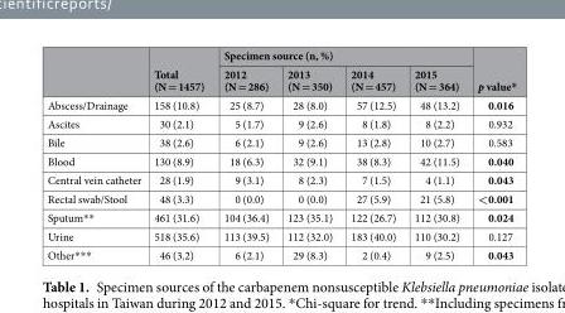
<table><thead><tr><td rowspan="2"></td><td rowspan="2">Total (N = 1457)</td><td colspan="4">Specimen source (n, %)</td><td rowspan="2">p value*</td></tr><tr><td>2012 (N = 286)</td><td>2013 (N = 350)</td><td>2014 (N = 457)</td><td>2015 (N = 364)</td></tr></thead><tbody><tr><td>Abscess/Drainage</td><td>158 (10.8)</td><td>25 (8.7)</td><td>28 (8.0)</td><td>57 (12.5)</td><td>48 (13.2)</td><td>0.016</td></tr><tr><td>Ascites</td><td>30 (2.1)</td><td>5 (1.7)</td><td>9 (2.6)</td><td>8 (1.8)</td><td>8 (2.2)</td><td>0.932</td></tr><tr><td>Bile</td><td>38 (2.6)</td><td>6 (2.1)</td><td>9 (2.6)</td><td>13 (2.8)</td><td>10 (2.7)</td><td>0.583</td></tr><tr><td>Blood</td><td>130 (8.9)</td><td>18 (6.3)</td><td>32 (9.1)</td><td>38 (8.3)</td><td>42 (11.5)</td><td>0.040</td></tr><tr><td>Central vein catheter</td><td>28 (1.9)</td><td>9 (3.1)</td><td>8 (2.3)</td><td>7 (1.5)</td><td>4 (1.1)</td><td>0.043</td></tr><tr><td>Rectal swab/Stool</td><td>48 (3.3)</td><td>0 (0.0)</td><td>0 (0.0)</td><td>27 (5.9)</td><td>21 (5.8)</td><td>&lt;0.001</td></tr><tr><td>Sputum**</td><td>461 (31.6)</td><td>104 (36.4)</td><td>123 (35.1)</td><td>122 (26.7)</td><td>112 (30.8)</td><td>0.024</td></tr><tr><td>Urine</td><td>518 (35.6)</td><td>113 (39.5)</td><td>112 (32.0)</td><td>183 (40.0)</td><td>110 (30.2)</td><td>0.127</td></tr><tr><td>Other***</td><td>46 (3.2)</td><td>6 (2.1)</td><td>29 (8.3)</td><td>2 (0.4)</td><td>9 (2.5)</td><td>0.043</td></tr></tbody></table>